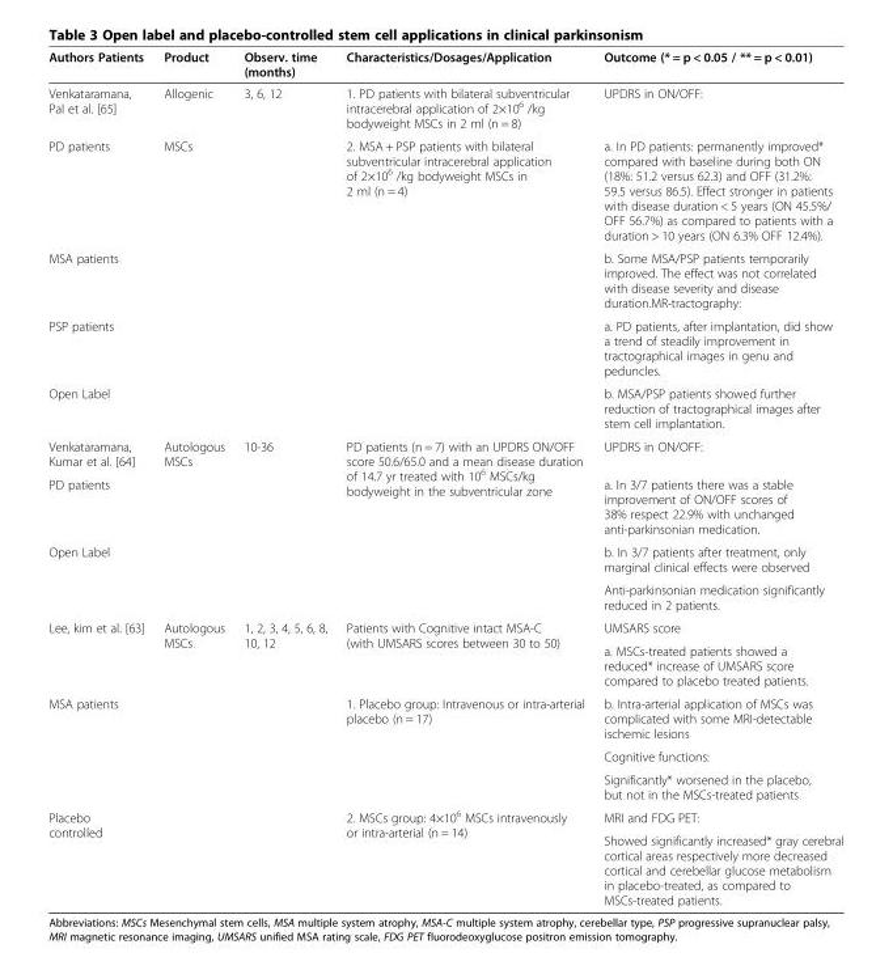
<table><thead><tr><td>Authors Patients</td><td>Product</td><td>Observ. time (months)</td><td>Characteristics/Dosages/Application</td><td>Outcome (* = p &lt; 0.05 / ** = p &lt; 0.01)</td></tr></thead><tbody><tr><td>Venkataramana, Pal et al. [65]</td><td>Allogenic</td><td>3, 6, 12</td><td>1. PD patients with bilateral subventricular intracerebral application of 2×10<sup>6</sup> /kg bodyweight MSCs in 2 ml (n = 8)</td><td>UPDRS in ON/OFF:</td></tr><tr><td>PD patients</td><td rowspan="4">MSCs</td><td rowspan="4"></td><td rowspan="4">2. MSA + PSP patients with bilateral subventricular intracerebral application of 2×10<sup>6</sup> /kg bodyweight MSCs in 2 ml (n = 4)</td><td>a. In PD patients: permanently improved* compared with baseline during both ON (18%: 51.2 versus 62.3) and OFF (31.2%: 59.5 versus 86.5). Effect stronger in patients with disease duration &lt; 5 years (ON 45.5%/ OFF 56.7%) as compared to patients with a duration &gt; 10 years (ON 6.3% OFF 12.4%).</td></tr><tr><td>MSA patients</td><td>b. Some MSA/PSP patients temporarily improved. The effect was not correlated with disease severity and disease duration.MR-tractography:</td></tr><tr><td>PSP patients</td><td>a. PD patients, after implantation, did show a trend of steadily improvement in tractographical images in genu and peduncles.</td></tr><tr><td>Open Label</td><td>b. MSA/PSP patients showed further reduction of tractographical images after stem cell implantation.</td></tr><tr><td>Venkataramana, Kumar et al. [64]</td><td>Autologous MSCs</td><td>10-36</td><td rowspan="4">PD patients (n = 7) with an UPDRS ON/OFF score 50.6/65.0 and a mean disease duration of 14.7 yr treated with 10<sup>6</sup> MSCs/kg bodyweight in the subventricular zone</td><td>UPDRS in ON/OFF:</td></tr><tr><td>PD patients</td><td></td><td></td><td>a. In 3/7 patients there was a stable improvement of ON/OFF scores of 38% respect 22.9% with unchanged anti-parkinsonian medication.</td></tr><tr><td rowspan="2">Open Label</td><td rowspan="2"></td><td rowspan="2"></td><td>b. In 3/7 patients after treatment, only marginal clinical effects were observed</td></tr><tr><td>Anti-parkinsonian medication significantly reduced in 2 patients.</td></tr><tr><td rowspan="2">Lee, kim et al. [63]</td><td rowspan="7">Autologous MSCs</td><td rowspan="7">1, 2, 3, 4, 5, 6, 8, 10, 12</td><td rowspan="2">Patients with Cognitive intact MSA-C (with UMSARS scores between 30 to 50)</td><td>UMSARS score</td></tr><tr><td>a. MSCs-treated patients showed a reduced* increase of UMSARS score compared to placebo treated patients.</td></tr><tr><td rowspan="3">MSA patients</td><td rowspan="3">1. Placebo group: Intravenous or intra-arterial placebo (n = 17)</td><td>b. Intra-arterial application of MSCs was complicated with some MRI-detectable ischemic lesions</td></tr><tr><td>Cognitive functions:</td></tr><tr><td>Significantly* worsened in the placebo, but not in the MSCs-treated patients</td></tr><tr><td rowspan="2">Placebo controlled</td><td rowspan="2">2. MSCs group: 4×10<sup>6</sup> MSCs intravenously or intra-arterial (n = 14)</td><td>MRI and FDG PET:</td></tr><tr><td>Showed significantly increased* gray cerebral cortical areas respectively more decreased cortical and cerebellar glucose metabolism in placebo-treated, as compared to MSCs-treated patients.</td></tr></tbody></table>